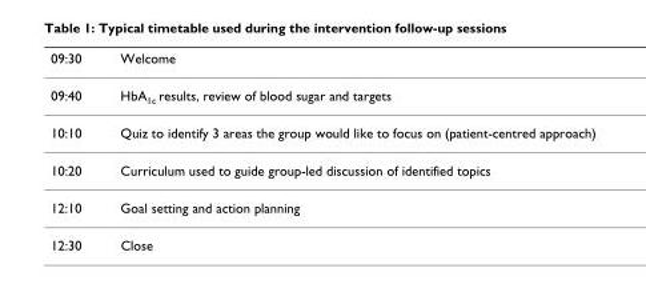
<table><thead><tr><td>09:30</td><td>Welcome</td></tr></thead><tbody><tr><td>09:40</td><td>HbA<sub>1c</sub> results, review of blood sugar and targets</td></tr><tr><td>10:10</td><td>Quiz to identify 3 areas the group would like to focus on (patient-centred approach)</td></tr><tr><td>10:20</td><td>Curriculum used to guide group-led discussion of identified topics</td></tr><tr><td>12:10</td><td>Goal setting and action planning</td></tr><tr><td>12:30</td><td>Close</td></tr></tbody></table>